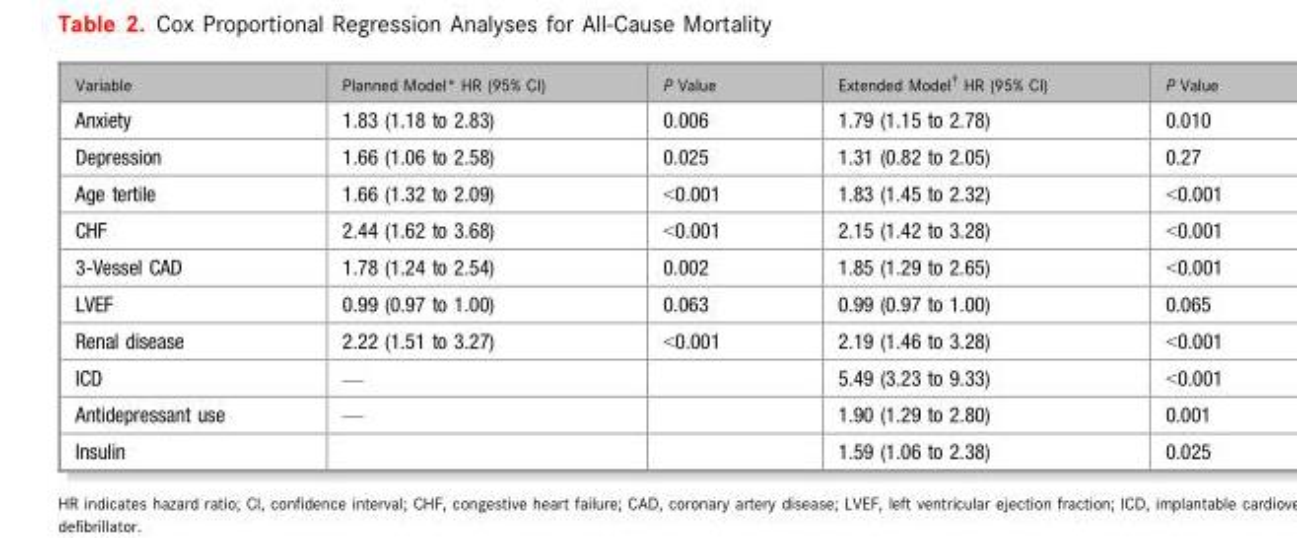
<table><thead><tr><td>Variable</td><td>Planned Model* HR (95% CI)</td><td>P Value</td><td>Extended Model† HR (95% CI)</td><td>P Value</td></tr></thead><tbody><tr><td>Anxiety</td><td>1.83 (1.18 to 2.83)</td><td>0.006</td><td>1.79 (1.15 to 2.78)</td><td>0.010</td></tr><tr><td>Depression</td><td>1.66 (1.06 to 2.58)</td><td>0.025</td><td>1.31 (0.82 to 2.05)</td><td>0.27</td></tr><tr><td>Age tertile</td><td>1.66 (1.32 to 2.09)</td><td>&lt;0.001</td><td>1.83 (1.45 to 2.32)</td><td>&lt;0.001</td></tr><tr><td>CHF</td><td>2.44 (1.62 to 3.68)</td><td>&lt;0.001</td><td>2.15 (1.42 to 3.28)</td><td>&lt;0.001</td></tr><tr><td>3-Vessel CAD</td><td>1.78 (1.24 to 2.54)</td><td>0.002</td><td>1.85 (1.29 to 2.65)</td><td>&lt;0.001</td></tr><tr><td>LVEF</td><td>0.99 (0.97 to 1.00)</td><td>0.063</td><td>0.99 (0.97 to 1.00)</td><td>0.065</td></tr><tr><td>Renal disease</td><td>2.22 (1.51 to 3.27)</td><td>&lt;0.001</td><td>2.19 (1.46 to 3.28)</td><td>&lt;0.001</td></tr><tr><td>ICD</td><td>—</td><td></td><td>5.49 (3.23 to 9.33)</td><td>&lt;0.001</td></tr><tr><td>Antidepressant use</td><td>—</td><td></td><td>1.90 (1.29 to 2.80)</td><td>0.001</td></tr><tr><td>Insulin</td><td></td><td></td><td>1.59 (1.06 to 2.38)</td><td>0.025</td></tr></tbody></table>